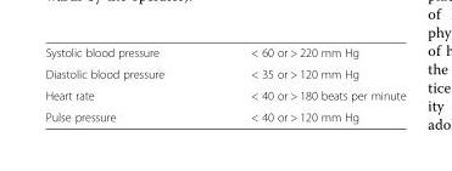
<table><tbody><tr><td>Systolic blood pressure</td><td>&lt; 60 or &gt; 220 mm Hg</td></tr><tr><td>Diastolic blood pressure</td><td>&lt; 35 or &gt; 120 mm Hg</td></tr><tr><td>Heart rate</td><td>&lt; 40 or &gt; 180 beats per minute</td></tr><tr><td>Pulse pressure</td><td>&lt; 40 or &gt; 120 mm Hg</td></tr></tbody></table>